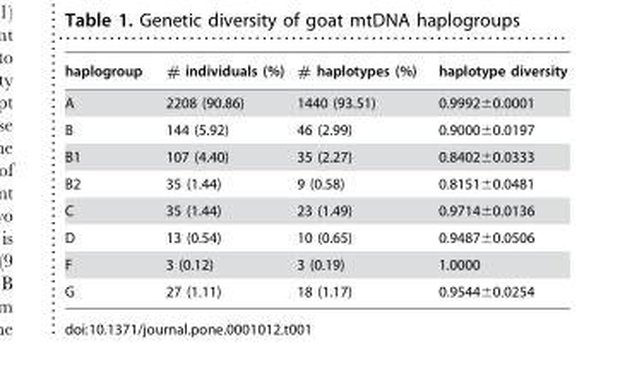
<table><thead><tr><td>haplogroup</td><td># individuals (%)</td><td># haplotypes (%)</td><td>haplotype diversity</td></tr></thead><tbody><tr><td>A</td><td>2208 (90.86)</td><td>1440 (93.51)</td><td>0.9992±0.0001</td></tr><tr><td>B</td><td>144 (5.92)</td><td>46 (2.99)</td><td>0.9000±0.0197</td></tr><tr><td>B1</td><td>107 (4.40)</td><td>35 (2.27)</td><td>0.8402±0.0333</td></tr><tr><td>B2</td><td>35 (1.44)</td><td>9 (0.58)</td><td>0.8151±0.0481</td></tr><tr><td>C</td><td>35 (1.44)</td><td>23 (1.49)</td><td>0.9714±0.0136</td></tr><tr><td>D</td><td>13 (0.54)</td><td>10 (0.65)</td><td>0.9487±0.0506</td></tr><tr><td>F</td><td>3 (0.12)</td><td>3 (0.19)</td><td>1.0000</td></tr><tr><td>G</td><td>27 (1.11)</td><td>18 (1.17)</td><td>0.9544±0.0254</td></tr></tbody></table>